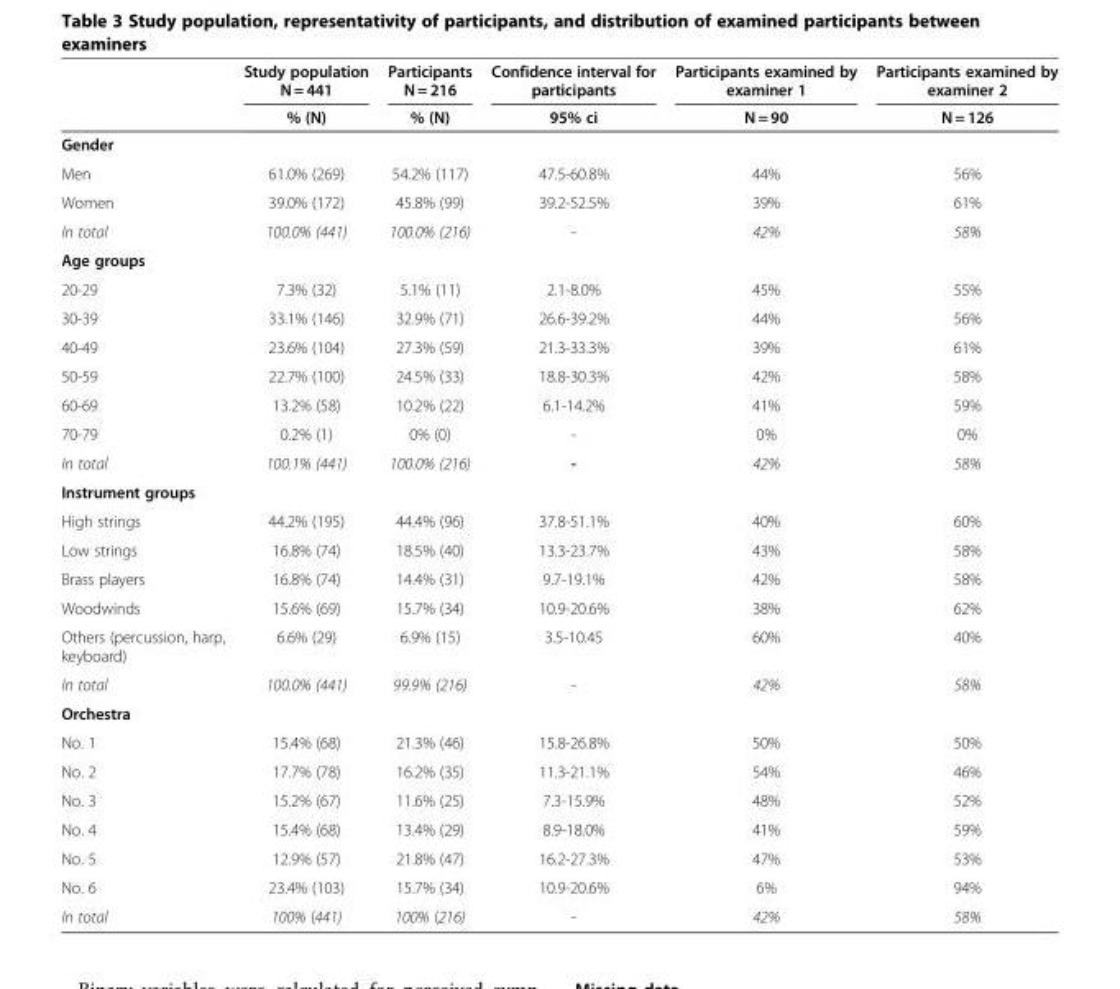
<table><thead><tr><td rowspan="2"></td><td rowspan="2">Study population N = 441 % (N)</td><td rowspan="2">Participants N = 216 % (N)</td><td rowspan="2">Confidence interval for participants 95% ci</td><td rowspan="2">Participants examined by examiner 1 N = 90</td><td rowspan="2">Participants examined by examiner 2 N = 126</td></tr><tr></tr></thead><tbody><tr><td colspan="6">Gender</td></tr><tr><td>Men</td><td>61.0% (269)</td><td>54.2% (117)</td><td>47.5-60.8%</td><td>44%</td><td>56%</td></tr><tr><td>Women</td><td>39.0% (172)</td><td>45.8% (99)</td><td>39.2-52.5%</td><td>39%</td><td>61%</td></tr><tr><td>In total</td><td>100.0% (441)</td><td>100.0% (216)</td><td>-</td><td>42%</td><td>58%</td></tr><tr><td colspan="6">Age groups</td></tr><tr><td>20-29</td><td>7.3% (32)</td><td>5.1% (11)</td><td>2.1-8.0%</td><td>45%</td><td>55%</td></tr><tr><td>30-39</td><td>33.1% (146)</td><td>32.9% (71)</td><td>26.6-39.2%</td><td>44%</td><td>56%</td></tr><tr><td>40-49</td><td>23.6% (104)</td><td>27.3% (59)</td><td>21.3-33.3%</td><td>39%</td><td>61%</td></tr><tr><td>50-59</td><td>22.7% (100)</td><td>24.5% (33)</td><td>18.8-30.3%</td><td>42%</td><td>58%</td></tr><tr><td>60-69</td><td>13.2% (58)</td><td>10.2% (22)</td><td>6.1-14.2%</td><td>41%</td><td>59%</td></tr><tr><td>70-79</td><td>0.2% (1)</td><td>0% (0)</td><td>-</td><td>0%</td><td>0%</td></tr><tr><td>In total</td><td>100.1% (441)</td><td>100.0% (216)</td><td>-</td><td>42%</td><td>58%</td></tr><tr><td colspan="6">Instrument groups</td></tr><tr><td>High strings</td><td>44.2% (195)</td><td>44.4% (96)</td><td>37.8-51.1%</td><td>40%</td><td>60%</td></tr><tr><td>Low strings</td><td>16.8% (74)</td><td>18.5% (40)</td><td>13.3-23.7%</td><td>43%</td><td>58%</td></tr><tr><td>Brass players</td><td>16.8% (74)</td><td>14.4% (31)</td><td>9.7-19.1%</td><td>42%</td><td>58%</td></tr><tr><td>Woodwinds</td><td>15.6% (69)</td><td>15.7% (34)</td><td>10.9-20.6%</td><td>38%</td><td>62%</td></tr><tr><td>Others (percussion, harp, keyboard)</td><td>6.6% (29)</td><td>6.9% (15)</td><td>3.5-10.45</td><td>60%</td><td>40%</td></tr><tr><td>In total</td><td>100.0% (441)</td><td>99.9% (216)</td><td>-</td><td>42%</td><td>58%</td></tr><tr><td colspan="6">Orchestra</td></tr><tr><td>No. 1</td><td>15.4% (68)</td><td>21.3% (46)</td><td>15.8-26.8%</td><td>50%</td><td>50%</td></tr><tr><td>No. 2</td><td>17.7% (78)</td><td>16.2% (35)</td><td>11.3-21.1%</td><td>54%</td><td>46%</td></tr><tr><td>No. 3</td><td>15.2% (67)</td><td>11.6% (25)</td><td>7.3-15.9%</td><td>48%</td><td>52%</td></tr><tr><td>No. 4</td><td>15.4% (68)</td><td>13.4% (29)</td><td>8.9-18.0%</td><td>41%</td><td>59%</td></tr><tr><td>No. 5</td><td>12.9% (57)</td><td>21.8% (47)</td><td>16.2-27.3%</td><td>47%</td><td>53%</td></tr><tr><td>No. 6</td><td>23.4% (103)</td><td>15.7% (34)</td><td>10.9-20.6%</td><td>6%</td><td>94%</td></tr><tr><td>In total</td><td>100% (441)</td><td>100% (216)</td><td>-</td><td>42%</td><td>58%</td></tr></tbody></table>